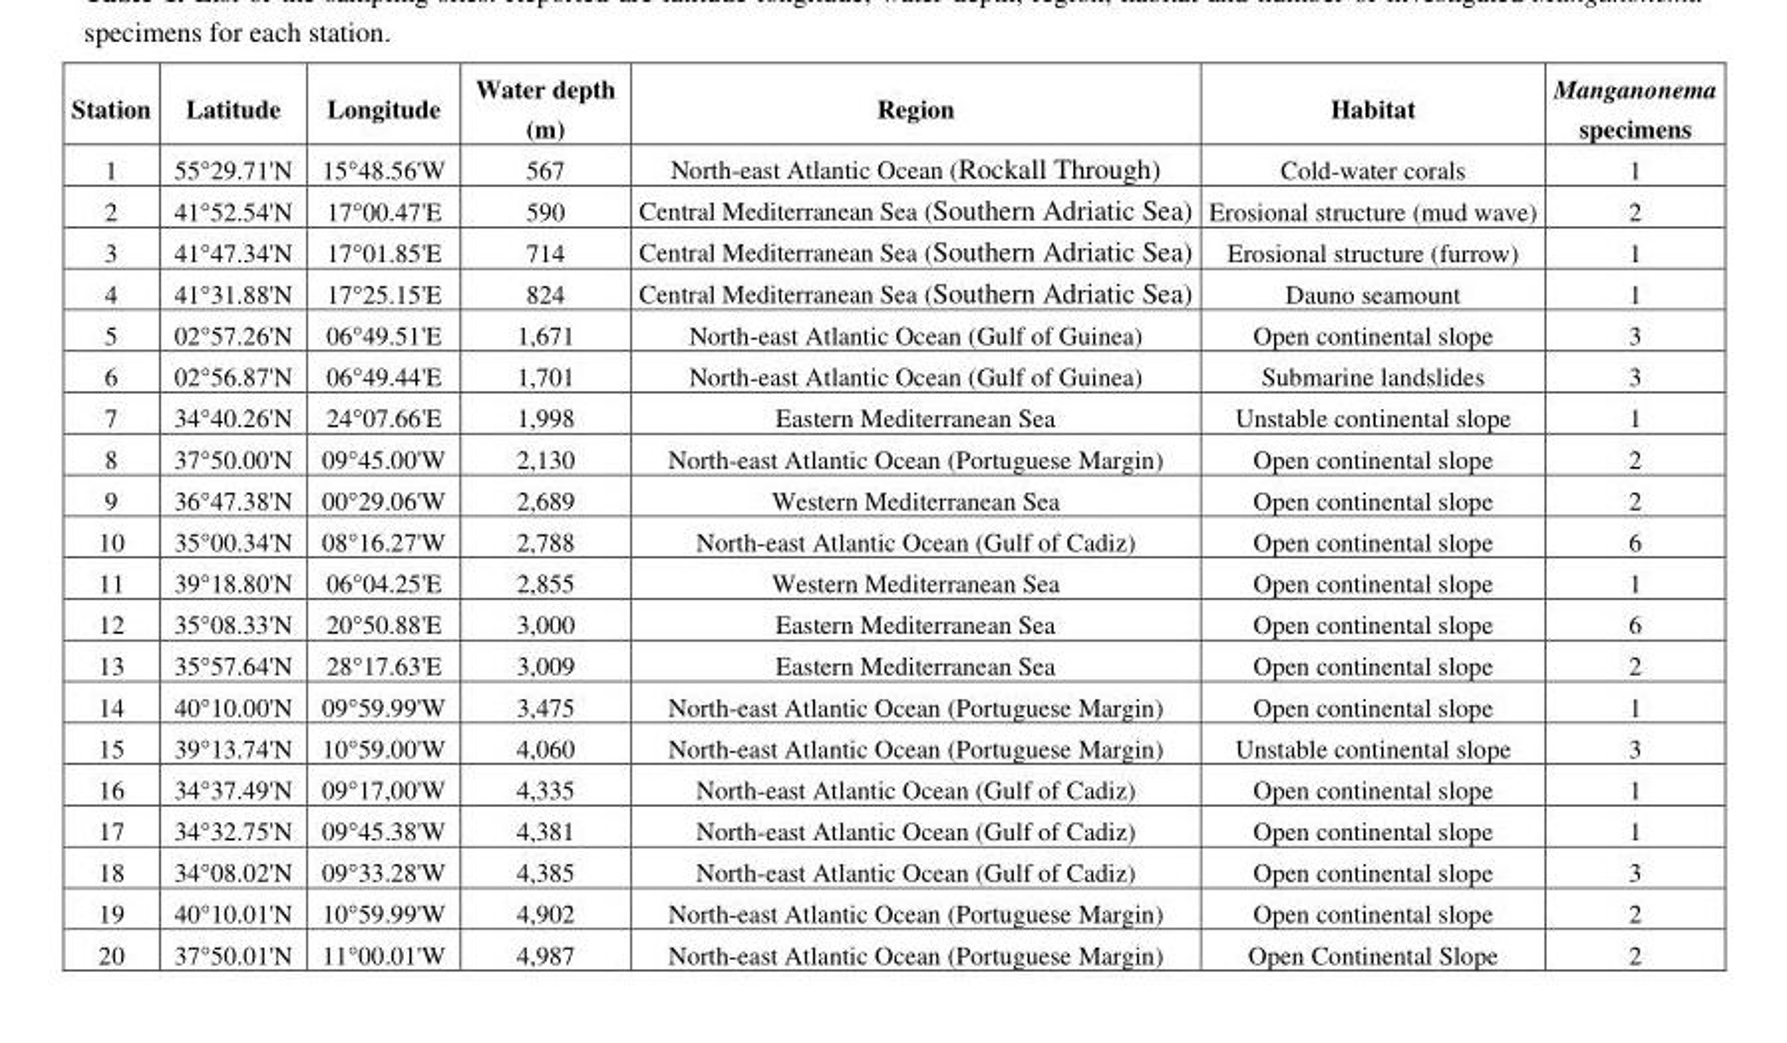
<table><thead><tr><td>Station</td><td>Latitude</td><td>Longitude</td><td>Water depth (m)</td><td>Region</td><td>Habitat</td><td>Manganonema specimens</td></tr></thead><tbody><tr><td>1</td><td>55°29.71&#x27;N</td><td>15°48.56&#x27;W</td><td>567</td><td>North-east Atlantic Ocean (Rockall Through)</td><td>Cold-water corals</td><td>1</td></tr><tr><td>2</td><td>41°52.54&#x27;N</td><td>17°00.47&#x27;E</td><td>590</td><td>Central Mediterranean Sea (Southern Adriatic Sea)</td><td>Erosional structure (mud wave)</td><td>2</td></tr><tr><td>3</td><td>41°47.34&#x27;N</td><td>17°01.85&#x27;E</td><td>714</td><td>Central Mediterranean Sea (Southern Adriatic Sea)</td><td>Erosional structure (furrow)</td><td>1</td></tr><tr><td>4</td><td>41°31.88&#x27;N</td><td>17°25.15&#x27;E</td><td>824</td><td>Central Mediterranean Sea (Southern Adriatic Sea)</td><td>Dauno seamount</td><td>1</td></tr><tr><td>5</td><td>02°57.26&#x27;N</td><td>06°49.51&#x27;E</td><td>1,671</td><td>North-east Atlantic Ocean (Gulf of Guinea)</td><td>Open continental slope</td><td>3</td></tr><tr><td>6</td><td>02°56.87&#x27;N</td><td>06°49.44&#x27;E</td><td>1,701</td><td>North-east Atlantic Ocean (Gulf of Guinea)</td><td>Submarine landslides</td><td>3</td></tr><tr><td>7</td><td>34°40.26&#x27;N</td><td>24°07.66&#x27;E</td><td>1,998</td><td>Eastern Mediterranean Sea</td><td>Unstable continental slope</td><td>1</td></tr><tr><td>8</td><td>37°50.00&#x27;N</td><td>09°45.00&#x27;W</td><td>2,130</td><td>North-east Atlantic Ocean (Portuguese Margin)</td><td>Open continental slope</td><td>2</td></tr><tr><td>9</td><td>36°47.38&#x27;N</td><td>00°29.06&#x27;W</td><td>2,689</td><td>Western Mediterranean Sea</td><td>Open continental slope</td><td>2</td></tr><tr><td>10</td><td>35°00.34&#x27;N</td><td>08°16.27&#x27;W</td><td>2,788</td><td>North-east Atlantic Ocean (Gulf of Cadiz)</td><td>Open continental slope</td><td>6</td></tr><tr><td>11</td><td>39°18.80&#x27;N</td><td>06°04.25&#x27;E</td><td>2,855</td><td>Western Mediterranean Sea</td><td>Open continental slope</td><td>1</td></tr><tr><td>12</td><td>35°08.33&#x27;N</td><td>20°50.88&#x27;E</td><td>3,000</td><td>Eastern Mediterranean Sea</td><td>Open continental slope</td><td>6</td></tr><tr><td>13</td><td>35°57.64&#x27;N</td><td>28°17.63&#x27;E</td><td>3,009</td><td>Eastern Mediterranean Sea</td><td>Open continental slope</td><td>2</td></tr><tr><td>14</td><td>40°10.00&#x27;N</td><td>09°59.99&#x27;W</td><td>3,475</td><td>North-east Atlantic Ocean (Portuguese Margin)</td><td>Open continental slope</td><td>1</td></tr><tr><td>15</td><td>39°13.74&#x27;N</td><td>10°59.00&#x27;W</td><td>4,060</td><td>North-east Atlantic Ocean (Portuguese Margin)</td><td>Unstable continental slope</td><td>3</td></tr><tr><td>16</td><td>34°37.49&#x27;N</td><td>09°17,00&#x27;W</td><td>4,335</td><td>North-east Atlantic Ocean (Gulf of Cadiz)</td><td>Open continental slope</td><td>1</td></tr><tr><td>17</td><td>34°32.75&#x27;N</td><td>09°45.38&#x27;W</td><td>4,381</td><td>North-east Atlantic Ocean (Gulf of Cadiz)</td><td>Open continental slope</td><td>1</td></tr><tr><td>18</td><td>34°08.02&#x27;N</td><td>09°33.28&#x27;W</td><td>4,385</td><td>North-east Atlantic Ocean (Gulf of Cadiz)</td><td>Open continental slope</td><td>3</td></tr><tr><td>19</td><td>40°10.01&#x27;N</td><td>10°59.99&#x27;W</td><td>4,902</td><td>North-east Atlantic Ocean (Portuguese Margin)</td><td>Open continental slope</td><td>2</td></tr><tr><td>20</td><td>37°50.01&#x27;N</td><td>11°00.01&#x27;W</td><td>4,987</td><td>North-east Atlantic Ocean (Portuguese Margin)</td><td>Open Continental Slope</td><td>2</td></tr></tbody></table>